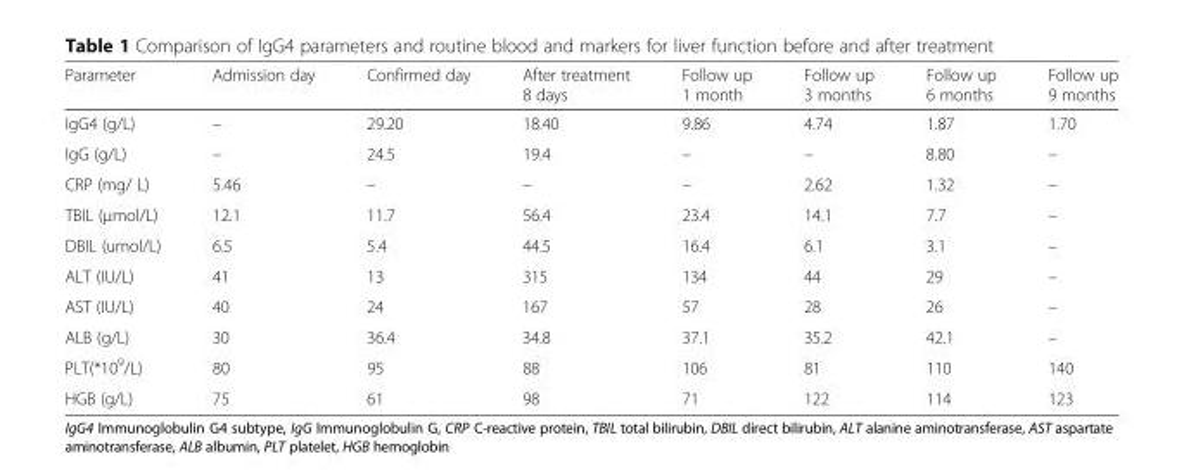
<table><thead><tr><td>Parameter</td><td>Admission day</td><td>Confirmed day</td><td>After treatment 8 days</td><td>Follow up 1 month</td><td>Follow up 3 months</td><td>Follow up 6 months</td><td>Follow up 9 months</td></tr></thead><tbody><tr><td>IgG4 (g/L)</td><td>–</td><td>29.20</td><td>18.40</td><td>9.86</td><td>4.74</td><td>1.87</td><td>1.70</td></tr><tr><td>IgG (g/L)</td><td>–</td><td>24.5</td><td>19.4</td><td>–</td><td>–</td><td>8.80</td><td>–</td></tr><tr><td>CRP (mg/ L)</td><td>5.46</td><td>–</td><td>–</td><td>–</td><td>2.62</td><td>1.32</td><td>–</td></tr><tr><td>TBIL (μmol/L)</td><td>12.1</td><td>11.7</td><td>56.4</td><td>23.4</td><td>14.1</td><td>7.7</td><td>–</td></tr><tr><td>DBIL (umol/L)</td><td>6.5</td><td>5.4</td><td>44.5</td><td>16.4</td><td>6.1</td><td>3.1</td><td>–</td></tr><tr><td>ALT (IU/L)</td><td>41</td><td>13</td><td>315</td><td>134</td><td>44</td><td>29</td><td>–</td></tr><tr><td>AST (IU/L)</td><td>40</td><td>24</td><td>167</td><td>57</td><td>28</td><td>26</td><td>–</td></tr><tr><td>ALB (g/L)</td><td>30</td><td>36.4</td><td>34.8</td><td>37.1</td><td>35.2</td><td>42.1</td><td>–</td></tr><tr><td>PLT(*10<sup>9</sup>/L)</td><td>80</td><td>95</td><td>88</td><td>106</td><td>81</td><td>110</td><td>140</td></tr><tr><td>HGB (g/L)</td><td>75</td><td>61</td><td>98</td><td>71</td><td>122</td><td>114</td><td>123</td></tr></tbody></table>